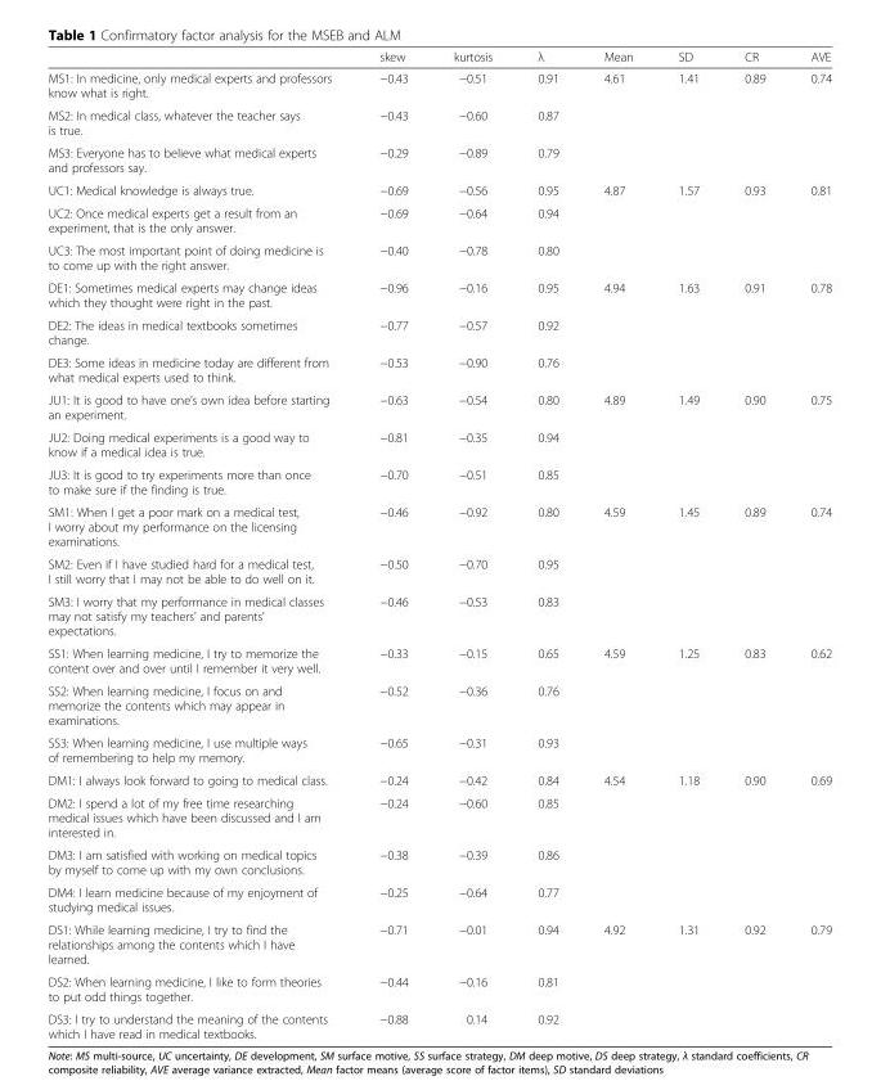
<table><thead><tr><td></td><td>skew</td><td>kurtosis</td><td>λ</td><td>Mean</td><td>SD</td><td>CR</td><td>AVE</td></tr></thead><tbody><tr><td>MS1: In medicine, only medical experts and professors know what is right.</td><td>−0.43</td><td>−0.51</td><td>0.91</td><td rowspan="3">4.61</td><td rowspan="3">1.41</td><td rowspan="3">0.89</td><td rowspan="3">0.74</td></tr><tr><td>MS2: In medical class, whatever the teacher says is true.</td><td>−0.43</td><td>−0.60</td><td>0.87</td></tr><tr><td>MS3: Everyone has to believe what medical experts and professors say.</td><td>−0.29</td><td>−0.89</td><td>0.79</td></tr><tr><td>UC1: Medical knowledge is always true.</td><td>−0.69</td><td>−0.56</td><td>0.95</td><td rowspan="3">4.87</td><td rowspan="3">1.57</td><td rowspan="3">0.93</td><td rowspan="3">0.81</td></tr><tr><td>UC2: Once medical experts get a result from an experiment, that is the only answer.</td><td>−0.69</td><td>−0.64</td><td>0.94</td></tr><tr><td>UC3: The most important point of doing medicine is to come up with the right answer.</td><td>−0.40</td><td>−0.78</td><td>0.80</td></tr><tr><td>DE1: Sometimes medical experts may change ideas which they thought were right in the past.</td><td>−0.96</td><td>−0.16</td><td>0.95</td><td rowspan="3">4.94</td><td rowspan="3">1.63</td><td rowspan="3">0.91</td><td rowspan="3">0.78</td></tr><tr><td>DE2: The ideas in medical textbooks sometimes change.</td><td>−0.77</td><td>−0.57</td><td>0.92</td></tr><tr><td>DE3: Some ideas in medicine today are different from what medical experts used to think.</td><td>−0.53</td><td>−0.90</td><td>0.76</td></tr><tr><td>JU1: It is good to have one’s own idea before starting an experiment.</td><td>−0.63</td><td>−0.54</td><td>0.80</td><td rowspan="3">4.89</td><td rowspan="3">1.49</td><td rowspan="3">0.90</td><td rowspan="3">0.75</td></tr><tr><td>JU2: Doing medical experiments is a good way to know if a medical idea is true.</td><td>−0.81</td><td>−0.35</td><td>0.94</td></tr><tr><td>JU3: It is good to try experiments more than once to make sure if the finding is true.</td><td>−0.70</td><td>−0.51</td><td>0.85</td></tr><tr><td>SM1: When I get a poor mark on a medical test, I worry about my performance on the licensing examinations.</td><td>−0.46</td><td>−0.92</td><td>0.80</td><td rowspan="3">4.59</td><td rowspan="3">1.45</td><td rowspan="3">0.89</td><td rowspan="3">0.74</td></tr><tr><td>SM2: Even if I have studied hard for a medical test, I still worry that I may not be able to do well on it.</td><td>−0.50</td><td>−0.70</td><td>0.95</td></tr><tr><td>SM3: I worry that my performance in medical classes may not satisfy my teachers&#x27; and parents&#x27; expectations.</td><td>−0.46</td><td>−0.53</td><td>0.83</td></tr><tr><td>SS1: When learning medicine, I try to memorize the content over and over until I remember it very well.</td><td>−0.33</td><td>−0.15</td><td>0.65</td><td rowspan="3">4.59</td><td rowspan="3">1.25</td><td rowspan="3">0.83</td><td rowspan="3">0.62</td></tr><tr><td>SS2: When learning medicine, I focus on and memorize the contents which may appear in examinations.</td><td>−0.52</td><td>−0.36</td><td>0.76</td></tr><tr><td>SS3: When learning medicine, I use multiple ways of remembering to help my memory.</td><td>−0.65</td><td>−0.31</td><td>0.93</td></tr><tr><td>DM1: I always look forward to going to medical class.</td><td>−0.24</td><td>−0.42</td><td>0.84</td><td rowspan="4">4.54</td><td rowspan="4">1.18</td><td rowspan="4">0.90</td><td rowspan="4">0.69</td></tr><tr><td>DM2: I spend a lot of my free time researching medical issues which have been discussed and I am interested in.</td><td>−0.24</td><td>−0.60</td><td>0.85</td></tr><tr><td>DM3: I am satisfied with working on medical topics by myself to come up with my own conclusions.</td><td>−0.38</td><td>−0.39</td><td>0.86</td></tr><tr><td>DM4: I learn medicine because of my enjoyment of studying medical issues.</td><td>−0.25</td><td>−0.64</td><td>0.77</td></tr><tr><td>DS1: While learning medicine, I try to find the relationships among the contents which I have learned.</td><td>−0.71</td><td>−0.01</td><td>0.94</td><td rowspan="3">4.92</td><td rowspan="3">1.31</td><td rowspan="3">0.92</td><td rowspan="3">0.79</td></tr><tr><td>DS2: When learning medicine, I like to form theories to put odd things together.</td><td>−0.44</td><td>−0.16</td><td>0.81</td></tr><tr><td>DS3: I try to understand the meaning of the contents which I have read in medical textbooks.</td><td>−0.88</td><td>0.14</td><td>0.92</td></tr></tbody></table>